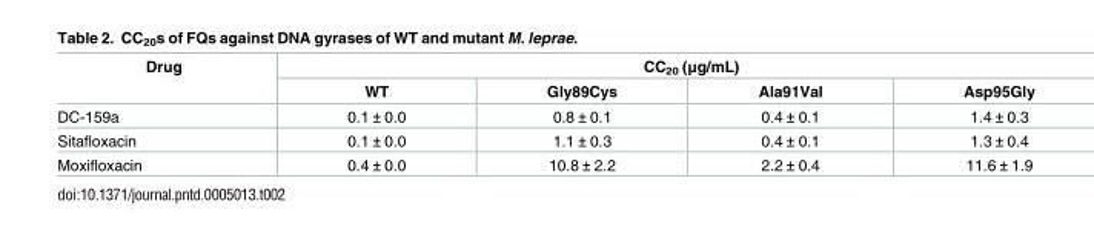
<table><thead><tr><td rowspan="2">Drug</td><td colspan="4">CC<sub>20</sub> (μg/mL)</td></tr><tr><td>WT</td><td>Gly89Cys</td><td>Ala91Val</td><td>Asp95Gly</td></tr></thead><tbody><tr><td>DC-159a</td><td>0.1 ± 0.0</td><td>0.8 ± 0.1</td><td>0.4 ± 0.1</td><td>1.4 ± 0.3</td></tr><tr><td>Sitafloxacin</td><td>0.1 ± 0.0</td><td>1.1 ± 0.3</td><td>0.4 ± 0.1</td><td>1.3 ± 0.4</td></tr><tr><td>Moxifloxacin</td><td>0.4 ± 0.0</td><td>10.8 ± 2.2</td><td>2.2 ± 0.4</td><td>11.6 ± 1.9</td></tr></tbody></table>